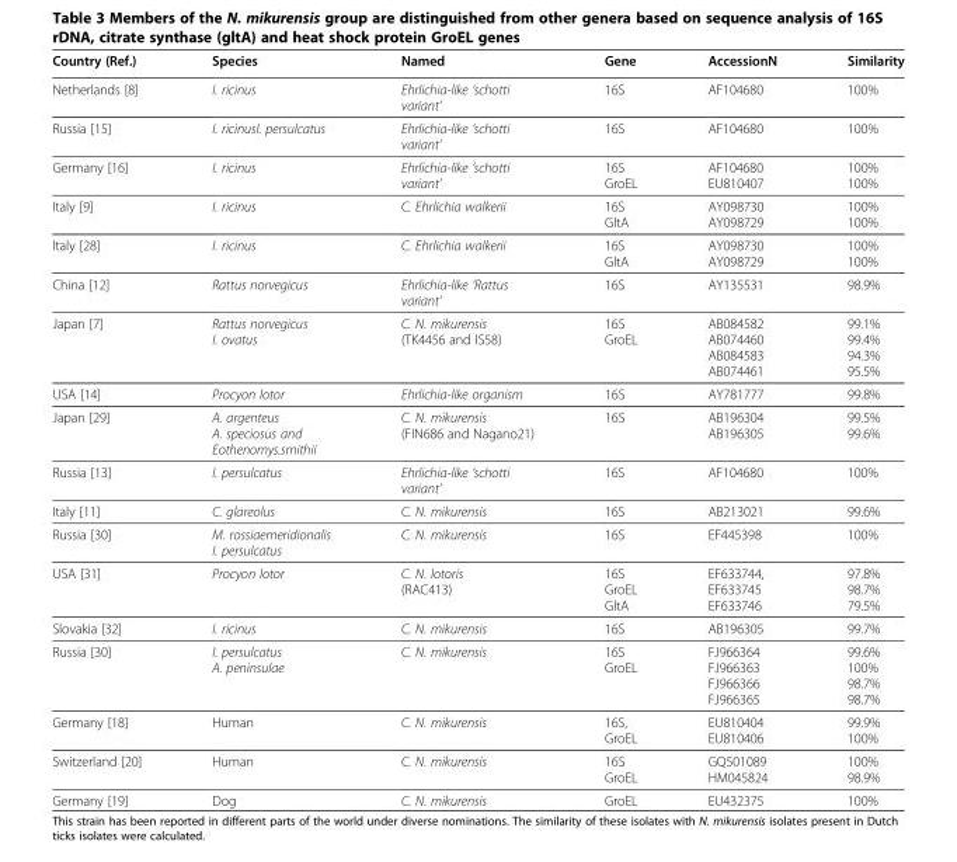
<table><thead><tr><td>Country (Ref.)</td><td>Species</td><td>Named</td><td>Gene</td><td>AccessionN</td><td>Similarity</td></tr></thead><tbody><tr><td>Netherlands [8]</td><td>I. ricinus</td><td>Ehrlichia-like ‘schotti variant’</td><td>16S</td><td>AF104680</td><td>100%</td></tr><tr><td>Russia [15]</td><td>I. ricinusI. persulcatus</td><td>Ehrlichia-like ‘schotti variant’</td><td>16S</td><td>AF104680</td><td>100%</td></tr><tr><td>Germany [16]</td><td>I. ricinus</td><td>Ehrlichia-like ‘schotti variant’</td><td>16S GroEL</td><td>AF104680 EU810407</td><td>100% 100%</td></tr><tr><td>Italy [9]</td><td>I. ricinus</td><td>C. Ehrlichia walkerii</td><td>16S GltA</td><td>AY098730 AY098729</td><td>100% 100%</td></tr><tr><td>Italy [28]</td><td>I. ricinus</td><td>C. Ehrlichia walkerii</td><td>16S GltA</td><td>AY098730 AY098729</td><td>100% 100%</td></tr><tr><td>China [12]</td><td>Rattus norvegicus</td><td>Ehrlichia-like ‘Rattus variant’</td><td>16S</td><td>AY135531</td><td>98.9%</td></tr><tr><td>Japan [7]</td><td>Rattus norvegicus I. ovatus</td><td>C. N. mikurensis (TK4456 and IS58)</td><td>16S GroEL</td><td>AB084582 AB074460 AB084583 AB074461</td><td>99.1% 99.4% 94.3% 95.5%</td></tr><tr><td>USA [14]</td><td>Procyon lotor</td><td>Ehrlichia-like organism</td><td>16S</td><td>AY781777</td><td>99.8%</td></tr><tr><td>Japan [29]</td><td>A. argenteus A. speciosus and Eothenomys.smithii</td><td>C. N. mikurensis (FIN686 and Nagano21)</td><td>16S</td><td>AB196304 AB196305</td><td>99.5% 99.6%</td></tr><tr><td>Russia [13]</td><td>I. persulcatus</td><td>Ehrlichia-like ‘schotti variant’</td><td>16S</td><td>AF104680</td><td>100%</td></tr><tr><td>Italy [11]</td><td>C. glareolus</td><td>C. N. mikurensis</td><td>16S</td><td>AB213021</td><td>99.6%</td></tr><tr><td>Russia [30]</td><td>M. rossiaemeridionalis I. persulcatus</td><td>C. N. mikurensis</td><td>16S</td><td>EF445398</td><td>100%</td></tr><tr><td>USA [31]</td><td>Procyon lotor</td><td>C. N. lotoris (RAC413)</td><td>16S GroEL GltA</td><td>EF633744, EF633745 EF633746</td><td>97.8% 98.7% 79.5%</td></tr><tr><td>Slovakia [32]</td><td>I. ricinus</td><td>C. N. mikurensis</td><td>16S</td><td>AB196305</td><td>99.7%</td></tr><tr><td>Russia [30]</td><td>I. persulcatus A. peninsulae</td><td>C. N. mikurensis</td><td>16S GroEL</td><td>FJ966364 FJ966363 FJ966366 FJ966365</td><td>99.6% 100% 98.7% 98.7%</td></tr><tr><td>Germany [18]</td><td>Human</td><td>C. N. mikurensis</td><td>16S, GroEL</td><td>EU810404 EU810406</td><td>99.9% 100%</td></tr><tr><td>Switzerland [20]</td><td>Human</td><td>C. N. mikurensis</td><td>16S GroEL</td><td>GQ501089 HM045824</td><td>100% 98.9%</td></tr><tr><td>Germany [19]</td><td>Dog</td><td>C. N. mikurensis</td><td>GroEL</td><td>EU432375</td><td>100%</td></tr></tbody></table>